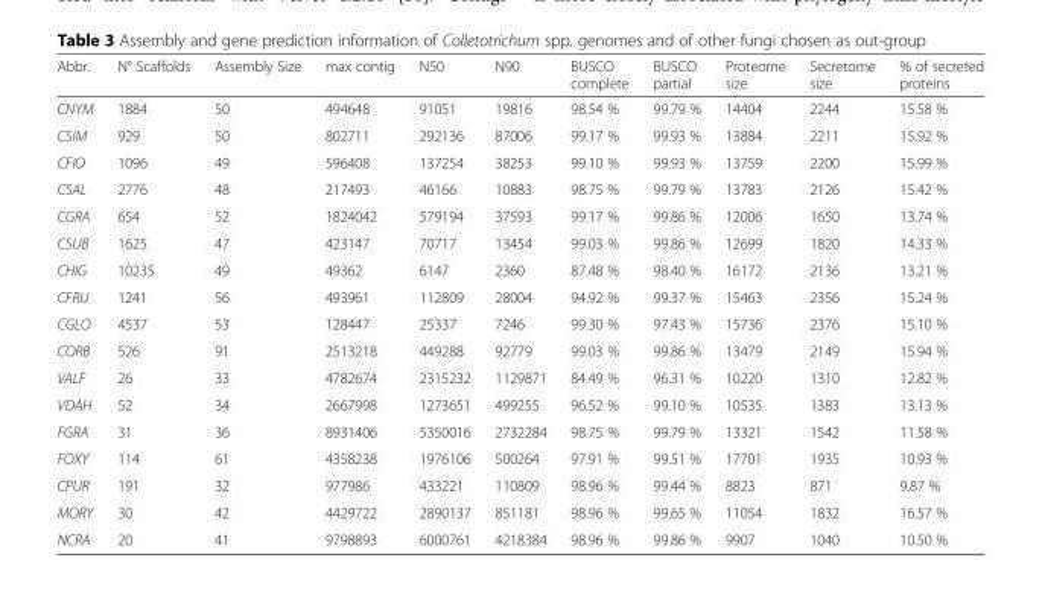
<table><thead><tr><td>Abbr.</td><td>N° Scaffolds</td><td>Assembly Size</td><td>max contig</td><td>N50</td><td>N90</td><td>BUSCO complete</td><td>BUSCO partial</td><td>Proteome size</td><td>Secretome size</td><td>% of secreted proteins</td></tr></thead><tbody><tr><td>CNYM</td><td>1884</td><td>50</td><td>494648</td><td>91051</td><td>19816</td><td>98.54 %</td><td>99.79 %</td><td>14404</td><td>2244</td><td>15.58 %</td></tr><tr><td>CSIM</td><td>929</td><td>50</td><td>802711</td><td>292136</td><td>87006</td><td>99.17 %</td><td>99.93 %</td><td>13884</td><td>2211</td><td>15.92 %</td></tr><tr><td>CFIO</td><td>1096</td><td>49</td><td>596408</td><td>137254</td><td>38253</td><td>99.10 %</td><td>99.93 %</td><td>13759</td><td>2200</td><td>15.99 %</td></tr><tr><td>CSAL</td><td>2776</td><td>48</td><td>217493</td><td>46166</td><td>10883</td><td>98.75 %</td><td>99.79 %</td><td>13783</td><td>2126</td><td>15.42 %</td></tr><tr><td>CGRA</td><td>654</td><td>52</td><td>1824042</td><td>579194</td><td>37593</td><td>99.17 %</td><td>99.86 %</td><td>12006</td><td>1650</td><td>13.74 %</td></tr><tr><td>CSUB</td><td>1625</td><td>47</td><td>423147</td><td>70717</td><td>13454</td><td>99.03 %</td><td>99.86 %</td><td>12699</td><td>1820</td><td>14.33 %</td></tr><tr><td>CHIG</td><td>10235</td><td>49</td><td>49362</td><td>6147</td><td>2360</td><td>87.48 %</td><td>98.40 %</td><td>16172</td><td>2136</td><td>13.21 %</td></tr><tr><td>CFRU</td><td>1241</td><td>56</td><td>493961</td><td>112809</td><td>28004</td><td>94.92 %</td><td>99.37 %</td><td>15463</td><td>2356</td><td>15.24 %</td></tr><tr><td>CGLO</td><td>4537</td><td>53</td><td>128447</td><td>25337</td><td>7246</td><td>99.30 %</td><td>97.43 %</td><td>15736</td><td>2376</td><td>15.10 %</td></tr><tr><td>CORB</td><td>526</td><td>91</td><td>2513218</td><td>449288</td><td>92779</td><td>99.03 %</td><td>99.86 %</td><td>13479</td><td>2149</td><td>15.94 %</td></tr><tr><td>VALF</td><td>26</td><td>33</td><td>4782674</td><td>2315232</td><td>1129871</td><td>84.49 %</td><td>96.31 %</td><td>10220</td><td>1310</td><td>12.82 %</td></tr><tr><td>VDAH</td><td>52</td><td>34</td><td>2667998</td><td>1273651</td><td>499255</td><td>96.52 %</td><td>99.10 %</td><td>10535</td><td>1383</td><td>13.13 %</td></tr><tr><td>FGRA</td><td>31</td><td>36</td><td>8931406</td><td>5350016</td><td>2732284</td><td>98.75 %</td><td>99.79 %</td><td>13321</td><td>1542</td><td>11.58 %</td></tr><tr><td>FOXY</td><td>114</td><td>61</td><td>4358238</td><td>1976106</td><td>500264</td><td>97.91 %</td><td>99.51 %</td><td>17701</td><td>1935</td><td>10.93 %</td></tr><tr><td>CPUR</td><td>191</td><td>32</td><td>977986</td><td>433221</td><td>110809</td><td>98.96 %</td><td>99.44 %</td><td>8823</td><td>871</td><td>9.87 %</td></tr><tr><td>MORY</td><td>30</td><td>42</td><td>4429722</td><td>2890137</td><td>851181</td><td>98.96 %</td><td>99.65 %</td><td>11054</td><td>1832</td><td>16.57 %</td></tr><tr><td>NCRA</td><td>20</td><td>41</td><td>9798893</td><td>6000761</td><td>4218384</td><td>98.96 %</td><td>99.86 %</td><td>9907</td><td>1040</td><td>10.50 %</td></tr></tbody></table>